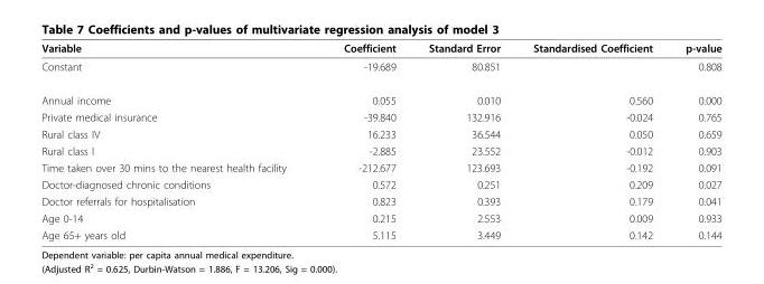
<table><thead><tr><td>Variable</td><td>Coefficient</td><td>Standard Error</td><td>Standardised Coefficient</td><td>p-value</td></tr></thead><tbody><tr><td>Constant</td><td>-19.689</td><td>80.851</td><td></td><td>0.808</td></tr><tr><td>Annual income</td><td>0.055</td><td>0.010</td><td>0.560</td><td>0.000</td></tr><tr><td>Private medical insurance</td><td>-39.840</td><td>132.916</td><td>-0.024</td><td>0.765</td></tr><tr><td>Rural class IV</td><td>16.233</td><td>36.544</td><td>0.050</td><td>0.659</td></tr><tr><td>Rural class I</td><td>-2.885</td><td>23.552</td><td>-0.012</td><td>0.903</td></tr><tr><td>Time taken over 30 mins to the nearest health facility</td><td>-212.677</td><td>123.693</td><td>-0.192</td><td>0.091</td></tr><tr><td>Doctor-diagnosed chronic conditions</td><td>0.572</td><td>0.251</td><td>0.209</td><td>0.027</td></tr><tr><td>Doctor referrals for hospitalisation</td><td>0.823</td><td>0.393</td><td>0.179</td><td>0.041</td></tr><tr><td>Age 0-14</td><td>0.215</td><td>2.553</td><td>0.009</td><td>0.933</td></tr><tr><td>Age 65+ years old</td><td>5.115</td><td>3.449</td><td>0.142</td><td>0.144</td></tr></tbody></table>